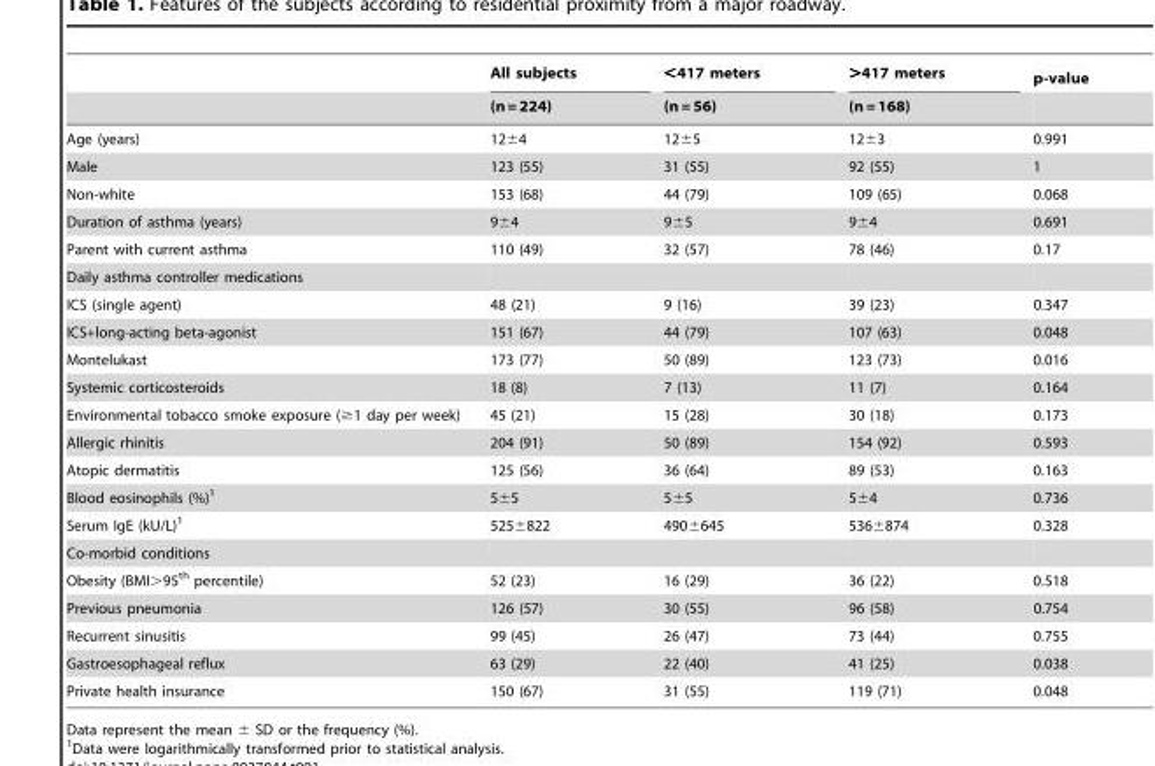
<table><thead><tr><td rowspan="2"></td><td rowspan="2">All subjects (n = 224)</td><td rowspan="2">&lt;417 meters (n = 56)</td><td rowspan="2">&gt;417 meters (n = 168)</td><td rowspan="2">p-value</td></tr><tr></tr></thead><tbody><tr><td>Age (years)</td><td>12±4</td><td>12±5</td><td>12±3</td><td>0.991</td></tr><tr><td>Male</td><td>123 (55)</td><td>31 (55)</td><td>92 (55)</td><td>1</td></tr><tr><td>Non-white</td><td>153 (68)</td><td>44 (79)</td><td>109 (65)</td><td>0.068</td></tr><tr><td>Duration of asthma (years)</td><td>9±4</td><td>9±5</td><td>9±4</td><td>0.691</td></tr><tr><td>Parent with current asthma</td><td>110 (49)</td><td>32 (57)</td><td>78 (46)</td><td>0.17</td></tr><tr><td colspan="5">Daily asthma controller medications</td></tr><tr><td>ICS (single agent)</td><td>48 (21)</td><td>9 (16)</td><td>39 (23)</td><td>0.347</td></tr><tr><td>ICS+long-acting beta-agonist</td><td>151 (67)</td><td>44 (79)</td><td>107 (63)</td><td>0.048</td></tr><tr><td>Montelukast</td><td>173 (77)</td><td>50 (89)</td><td>123 (73)</td><td>0.016</td></tr><tr><td>Systemic corticosteroids</td><td>18 (8)</td><td>7 (13)</td><td>11 (7)</td><td>0.164</td></tr><tr><td>Environmental tobacco smoke exposure (≥1 day per week)</td><td>45 (21)</td><td>15 (28)</td><td>30 (18)</td><td>0.173</td></tr><tr><td>Allergic rhinitis</td><td>204 (91)</td><td>50 (89)</td><td>154 (92)</td><td>0.593</td></tr><tr><td>Atopic dermatitis</td><td>125 (56)</td><td>36 (64)</td><td>89 (53)</td><td>0.163</td></tr><tr><td>Blood eosinophils (%)<sup>1</sup></td><td>5±5</td><td>5±5</td><td>5±4</td><td>0.736</td></tr><tr><td>Serum IgE (kU/L)<sup>1</sup></td><td>525±822</td><td>490±645</td><td>536±874</td><td>0.328</td></tr><tr><td colspan="5">Co-morbid conditions</td></tr><tr><td>Obesity (BMI&gt;95<sup>th</sup> percentile)</td><td>52 (23)</td><td>16 (29)</td><td>36 (22)</td><td>0.518</td></tr><tr><td>Previous pneumonia</td><td>126 (57)</td><td>30 (55)</td><td>96 (58)</td><td>0.754</td></tr><tr><td>Recurrent sinusitis</td><td>99 (45)</td><td>26 (47)</td><td>73 (44)</td><td>0.755</td></tr><tr><td>Gastroesophageal reflux</td><td>63 (29)</td><td>22 (40)</td><td>41 (25)</td><td>0.038</td></tr><tr><td>Private health insurance</td><td>150 (67)</td><td>31 (55)</td><td>119 (71)</td><td>0.048</td></tr></tbody></table>